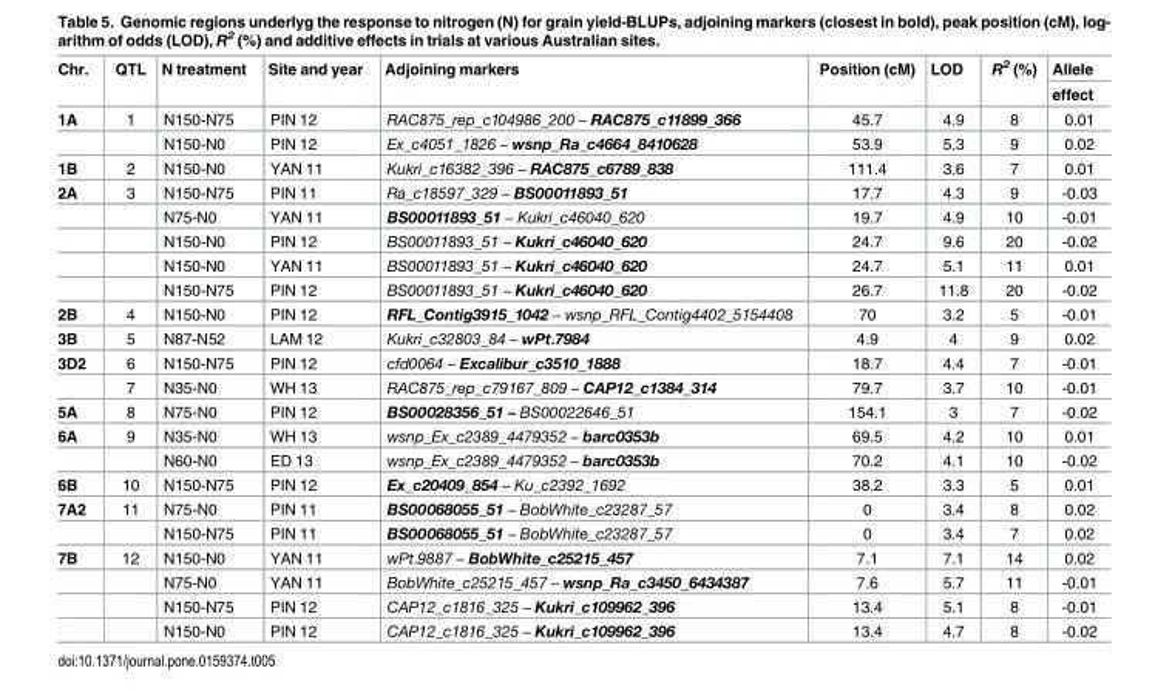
<table><thead><tr><td rowspan="2">Chr.</td><td rowspan="2">QTL</td><td rowspan="2">N treatment</td><td rowspan="2">Site and year</td><td rowspan="2">Adjoining markers</td><td rowspan="2">Position (cM)</td><td rowspan="2">LOD</td><td rowspan="2">R<sup>2</sup> (%)</td><td rowspan="2">Allele effect</td></tr><tr></tr></thead><tbody><tr><td rowspan="2">1A</td><td>1</td><td>N150-N75</td><td>PIN 12</td><td>RAC875_rep_c104986_200 − RAC875_c11899_366</td><td>45.7</td><td>4.9</td><td>8</td><td>0.01</td></tr><tr><td></td><td>N150-N0</td><td>PIN 12</td><td>Ex_c4051_1826 − wsnp_Ra_c4664_8410628</td><td>53.9</td><td>5.3</td><td>9</td><td>0.02</td></tr><tr><td>1B</td><td>2</td><td>N150-N0</td><td>YAN 11</td><td>Kukri_c16382_396 − RAC875_c6789_838</td><td>111.4</td><td>3.6</td><td>7</td><td>0.01</td></tr><tr><td rowspan="5">2A</td><td>3</td><td>N150-N75</td><td>PIN 11</td><td>Ra_c18597_329 − BS00011893_51</td><td>17.7</td><td>4.3</td><td>9</td><td>-0.03</td></tr><tr><td></td><td>N75-N0</td><td>YAN 11</td><td>BS00011893_51 − Kukri_c46040_620</td><td>19.7</td><td>4.9</td><td>10</td><td>-0.01</td></tr><tr><td></td><td>N150-N0</td><td>PIN 12</td><td>BS00011893_51 − Kukri_c46040_620</td><td>24.7</td><td>9.6</td><td>20</td><td>-0.02</td></tr><tr><td></td><td>N150-N0</td><td>YAN 11</td><td>BS00011893_51 − Kukri_c46040_620</td><td>24.7</td><td>5.1</td><td>11</td><td>0.01</td></tr><tr><td></td><td>N150-N75</td><td>PIN 12</td><td>BS00011893_51 − Kukri_c46040_620</td><td>26.7</td><td>11.8</td><td>20</td><td>-0.02</td></tr><tr><td>2B</td><td>4</td><td>N150-N0</td><td>PIN 12</td><td>RFL_Contig3915_1042 − wsnp_RFL_Contig4402_5154408</td><td>70</td><td>3.2</td><td>5</td><td>-0.01</td></tr><tr><td>3B</td><td>5</td><td>N87-N52</td><td>LAM 12</td><td>Kukri_c32803_84 − wPt.7984</td><td>4.9</td><td>4</td><td>9</td><td>0.02</td></tr><tr><td rowspan="2">3D2</td><td>6</td><td>N150-N75</td><td>PIN 12</td><td>cfd0064 − Excalibur_c3510_1888</td><td>18.7</td><td>4.4</td><td>7</td><td>-0.01</td></tr><tr><td>7</td><td>N35-N0</td><td>WH 13</td><td>RAC875_rep_c79167_809 − CAP12_c1384_314</td><td>79.7</td><td>3.7</td><td>10</td><td>-0.01</td></tr><tr><td>5A</td><td>8</td><td>N75-N0</td><td>PIN 12</td><td>BS00028356_51 − BS00022646_51</td><td>154.1</td><td>3</td><td>7</td><td>-0.02</td></tr><tr><td rowspan="2">6A</td><td>9</td><td>N35-N0</td><td>WH 13</td><td>wsnp_Ex_c2389_4479352 − barc0353b</td><td>69.5</td><td>4.2</td><td>10</td><td>0.01</td></tr><tr><td></td><td>N60-N0</td><td>ED 13</td><td>wsnp_Ex_c2389_4479352 − barc0353b</td><td>70.2</td><td>4.1</td><td>10</td><td>-0.02</td></tr><tr><td>6B</td><td>10</td><td>N150-N75</td><td>PIN 12</td><td>Ex_c20409_854 − Ku_c2392_1692</td><td>38.2</td><td>3.3</td><td>5</td><td>0.01</td></tr><tr><td rowspan="2">7A2</td><td>11</td><td>N75-N0</td><td>PIN 11</td><td>BS00068055_51 − BobWhite_c23287_57</td><td>0</td><td>3.4</td><td>8</td><td>0.02</td></tr><tr><td></td><td>N150-N75</td><td>PIN 11</td><td>BS00068055_51 − BobWhite_c23287_57</td><td>0</td><td>3.4</td><td>7</td><td>0.02</td></tr><tr><td rowspan="4">7B</td><td>12</td><td>N150-N0</td><td>YAN 11</td><td>wPt.9887 − BobWhite_c25215_457</td><td>7.1</td><td>7.1</td><td>14</td><td>0.02</td></tr><tr><td></td><td>N75-N0</td><td>YAN 11</td><td>BobWhite_c25215_457 − wsnp_Ra_c3450_6434387</td><td>7.6</td><td>5.7</td><td>11</td><td>-0.01</td></tr><tr><td></td><td>N150-N75</td><td>PIN 12</td><td>CAP12_c1816_325 − Kukri_c109962_396</td><td>13.4</td><td>5.1</td><td>8</td><td>-0.01</td></tr><tr><td></td><td>N150-N0</td><td>PIN 12</td><td>CAP12_c1816_325 − Kukri_c109962_396</td><td>13.4</td><td>4.7</td><td>8</td><td>-0.02</td></tr></tbody></table>